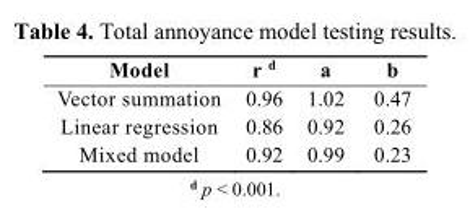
<table><thead><tr><td>Model</td><td>r <sup>d</sup></td><td>a</td><td>b</td></tr></thead><tbody><tr><td>Vector summation</td><td>0.96</td><td>1.02</td><td>0.47</td></tr><tr><td>Linear regression</td><td>0.86</td><td>0.92</td><td>0.26</td></tr><tr><td>Mixed model</td><td>0.92</td><td>0.99</td><td>0.23</td></tr></tbody></table>